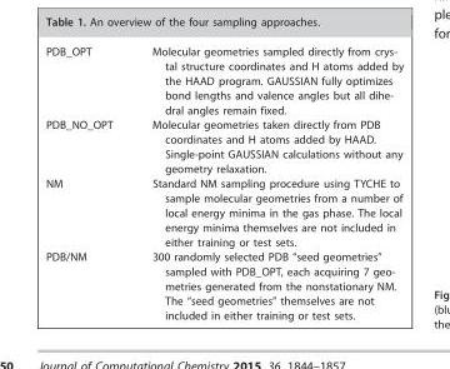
<table><tbody><tr><td>PDB_OPT</td><td>Molecular geometries sampled directly from crys- tal structure coordinates and H atoms added by the HAAD program. GAUSSIAN fully optimizes bond lengths and valence angles but all dihe- dral angles remain fixed.</td></tr><tr><td>PDB_NO_OPT</td><td>Molecular geometries taken directly from PDB coordinates and H atoms added by HAAD. Single-point GAUSSIAN calculations without any geometry relaxation.</td></tr><tr><td>NM</td><td>Standard NM sampling procedure using TYCHE to sample molecular geometries from a number of local energy minima in the gas phase. The local energy minima themselves are not included in either training or test sets.</td></tr><tr><td>PDB/NM</td><td>300 randomly selected PDB “seed geometries” sampled with PDB_OPT, each acquiring 7 geo- metries generated from the nonstationary NM. The “seed geometries” themselves are not included in either training or test sets.</td></tr></tbody></table>